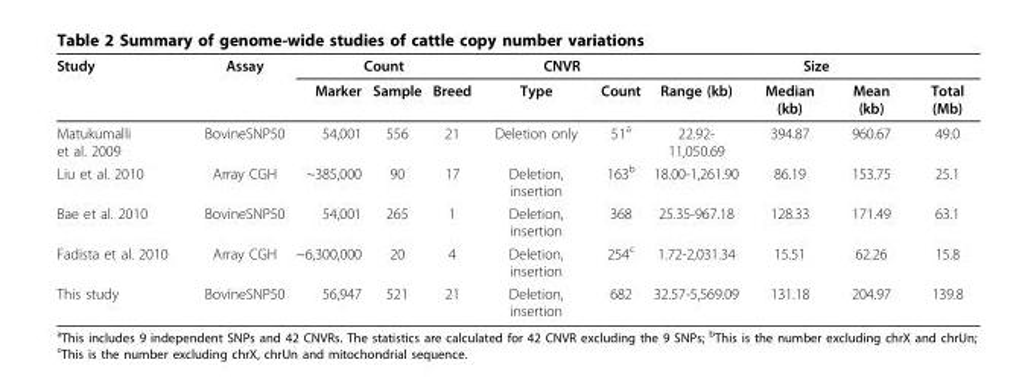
<table><thead><tr><td rowspan="2">Study</td><td rowspan="2">Assay</td><td colspan="3">Count</td><td colspan="2">CNVR</td><td colspan="4">Size</td></tr><tr><td>Marker</td><td>Sample</td><td>Breed</td><td>Type</td><td>Count</td><td>Range (kb)</td><td>Median (kb)</td><td>Mean (kb)</td><td>Total (Mb)</td></tr></thead><tbody><tr><td>Matukumalli et al. 2009</td><td>BovineSNP50</td><td>54,001</td><td>556</td><td>21</td><td>Deletion only</td><td>51<sup>a</sup></td><td>22.92- 11,050.69</td><td>394.87</td><td>960.67</td><td>49.0</td></tr><tr><td>Liu et al. 2010</td><td>Array CGH</td><td>~385,000</td><td>90</td><td>17</td><td>Deletion, insertion</td><td>163<sup>b</sup></td><td>18.00-1,261.90</td><td>86.19</td><td>153.75</td><td>25.1</td></tr><tr><td>Bae et al. 2010</td><td>BovineSNP50</td><td>54,001</td><td>265</td><td>1</td><td>Deletion, insertion</td><td>368</td><td>25.35-967.18</td><td>128.33</td><td>171.49</td><td>63.1</td></tr><tr><td>Fadista et al. 2010</td><td>Array CGH</td><td>~6,300,000</td><td>20</td><td>4</td><td>Deletion, insertion</td><td>254<sup>c</sup></td><td>1.72-2,031.34</td><td>15.51</td><td>62.26</td><td>15.8</td></tr><tr><td>This study</td><td>BovineSNP50</td><td>56,947</td><td>521</td><td>21</td><td>Deletion, insertion</td><td>682</td><td>32.57-5,569.09</td><td>131.18</td><td>204.97</td><td>139.8</td></tr></tbody></table>